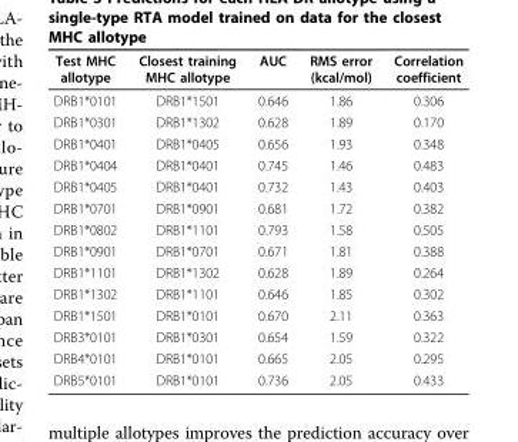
<table><thead><tr><td>Test MHC allotype</td><td>Closest training MHC allotype</td><td>AUC</td><td>RMS error (kcal/mol)</td><td>Correlation coefficient</td></tr></thead><tbody><tr><td>DRB1*0101</td><td>DRB1*1501</td><td>0.646</td><td>1.86</td><td>0.306</td></tr><tr><td>DRB1*0301</td><td>DRB1*1302</td><td>0.628</td><td>1.89</td><td>0.170</td></tr><tr><td>DRB1*0401</td><td>DRB1*0405</td><td>0.656</td><td>1.93</td><td>0.348</td></tr><tr><td>DRB1*0404</td><td>DRB1*0401</td><td>0.745</td><td>1.46</td><td>0.483</td></tr><tr><td>DRB1*0405</td><td>DRB1*0401</td><td>0.732</td><td>1.43</td><td>0.403</td></tr><tr><td>DRB1*0701</td><td>DRB1*0901</td><td>0.681</td><td>1.72</td><td>0.382</td></tr><tr><td>DRB1*0802</td><td>DRB1*1101</td><td>0.793</td><td>1.58</td><td>0.505</td></tr><tr><td>DRB1*0901</td><td>DRB1*0701</td><td>0.671</td><td>1.81</td><td>0.388</td></tr><tr><td>DRB1*1101</td><td>DRB1*1302</td><td>0.628</td><td>1.89</td><td>0.264</td></tr><tr><td>DRB1*1302</td><td>DRB1*1101</td><td>0.646</td><td>1.85</td><td>0.302</td></tr><tr><td>DRB1*1501</td><td>DRB1*0101</td><td>0.670</td><td>2.11</td><td>0.363</td></tr><tr><td>DRB3*0101</td><td>DRB1*0301</td><td>0.654</td><td>1.59</td><td>0.322</td></tr><tr><td>DRB4*0101</td><td>DRB1*0101</td><td>0.665</td><td>2.05</td><td>0.295</td></tr><tr><td>DRB5*0101</td><td>DRB1*0101</td><td>0.736</td><td>2.05</td><td>0.433</td></tr></tbody></table>